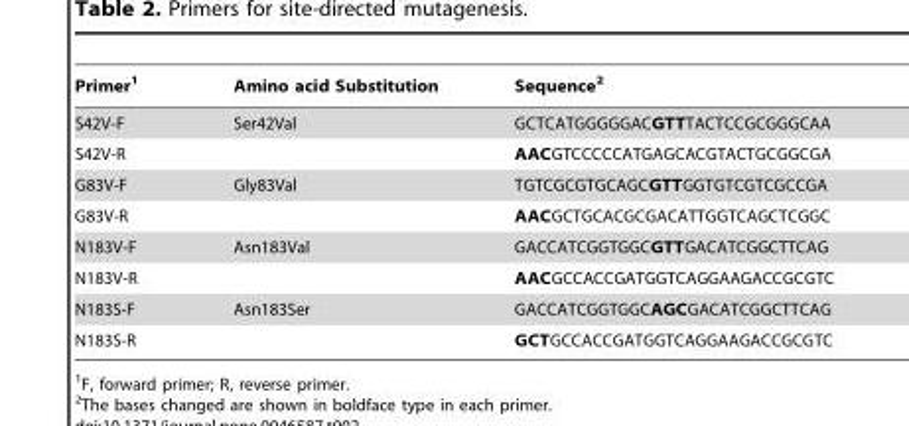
<table><thead><tr><td>Primer<sup>1</sup></td><td>Amino acid Substitution</td><td>Sequence<sup>2</sup></td></tr></thead><tbody><tr><td>S42V-F</td><td>Ser42Val</td><td>GCTCATGGGGGACGTTTACTCCGCGGGCAA</td></tr><tr><td>S42V-R</td><td></td><td>AACGTCCCCCATGAGCACGTACTGCGGCGA</td></tr><tr><td>G83V-F</td><td>Gly83Val</td><td>TGTCGCGTGCAGCGTTGGTGTCGTCGCCGA</td></tr><tr><td>G83V-R</td><td></td><td>AACGCTGCACGCGACATTGGTCAGCTCGGC</td></tr><tr><td>N183V-F</td><td>Asn183Val</td><td>GACCATCGGTGGCGTTGACATCGGCTTCAG</td></tr><tr><td>N183V-R</td><td></td><td>AACGCCACCGATGGTCAGGAAGACCGCGTC</td></tr><tr><td>N183S-F</td><td>Asn183Ser</td><td>GACCATCGGTGGCAGCGACATCGGCTTCAG</td></tr><tr><td>N183S-R</td><td></td><td>GCTGCCACCGATGGTCAGGAAGACCGCGTC</td></tr></tbody></table>